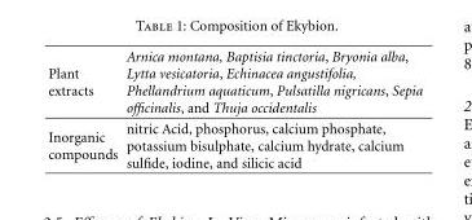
<table><tbody><tr><td>Plant extracts</td><td>Arnica montana, Baptisia tinctoria, Bryonia alba, Lytta vesicatoria, Echinacea angustifolia, Phellandrium aquaticum, Pulsatilla nigricans, Sepia officinalis, and Thuja occidentalis</td></tr><tr><td>Inorganic compounds</td><td>nitric Acid, phosphorus, calcium phosphate, potassium bisulphate, calcium hydrate, calcium sulfide, iodine, and silicic acid</td></tr></tbody></table>